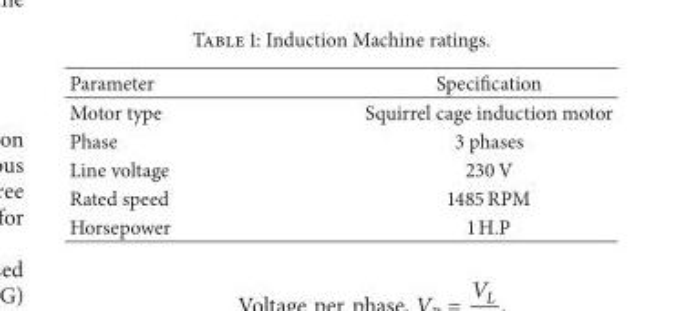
<table><thead><tr><td>Parameter</td><td>Specification</td></tr></thead><tbody><tr><td>Motor type</td><td>Squirrel cage induction motor</td></tr><tr><td>Phase</td><td>3 phases</td></tr><tr><td>Line voltage</td><td>230 V</td></tr><tr><td>Rated speed</td><td>1485 RPM</td></tr><tr><td>Horsepower</td><td>1 H.P</td></tr></tbody></table>